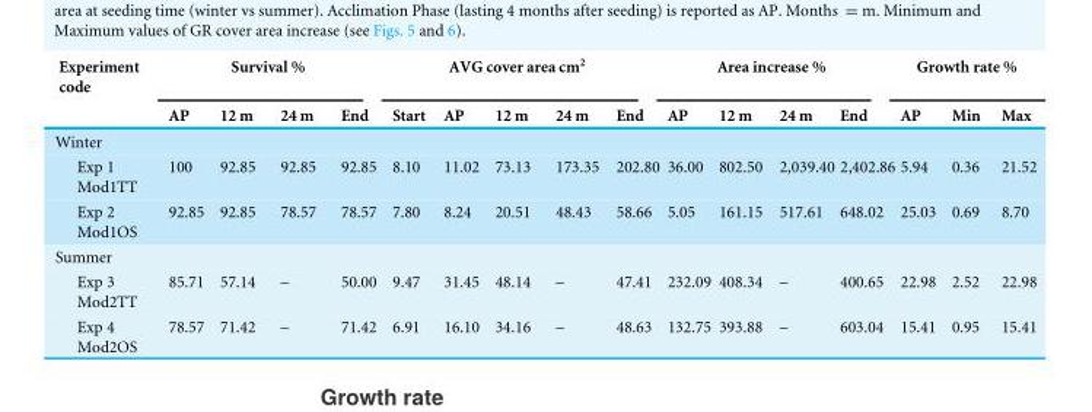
<table><thead><tr><td rowspan="2">Experiment code</td><td colspan="4">Survival %</td><td colspan="5">AVG cover area cm<sup>2</sup></td><td colspan="4">Area increase %</td><td colspan="3">Growth rate %</td></tr><tr><td>AP</td><td>12 m</td><td>24 m</td><td>End</td><td>Start</td><td>AP</td><td>12 m</td><td>24 m</td><td>End</td><td>AP</td><td>12 m</td><td>24 m</td><td>End</td><td>AP</td><td>Min</td><td>Max</td></tr></thead><tbody><tr><td colspan="17">Winter</td></tr><tr><td>Exp 1 Mod1TT</td><td>100</td><td>92.85</td><td>92.85</td><td>92.85</td><td>8.10</td><td>11.02</td><td>73.13</td><td>173.35</td><td>202.80</td><td>36.00</td><td>802.50</td><td>2,039.40</td><td>2,402.86</td><td>5.94</td><td>0.36</td><td>21.52</td></tr><tr><td>Exp 2 Mod1OS</td><td>92.85</td><td>92.85</td><td>78.57</td><td>78.57</td><td>7.80</td><td>8.24</td><td>20.51</td><td>48.43</td><td>58.66</td><td>5.05</td><td>161.15</td><td>517.61</td><td>648.02</td><td>25.03</td><td>0.69</td><td>8.70</td></tr><tr><td colspan="17">Summer</td></tr><tr><td>Exp 3 Mod2TT</td><td>85.71</td><td>57.14</td><td>–</td><td>50.00</td><td>9.47</td><td>31.45</td><td>48.14</td><td>–</td><td>47.41</td><td>232.09</td><td>408.34</td><td>–</td><td>400.65</td><td>22.98</td><td>2.52</td><td>22.98</td></tr><tr><td>Exp 4 Mod2OS</td><td>78.57</td><td>71.42</td><td>–</td><td>71.42</td><td>6.91</td><td>16.10</td><td>34.16</td><td>–</td><td>48.63</td><td>132.75</td><td>393.88</td><td>–</td><td>603.04</td><td>15.41</td><td>0.95</td><td>15.41</td></tr></tbody></table>